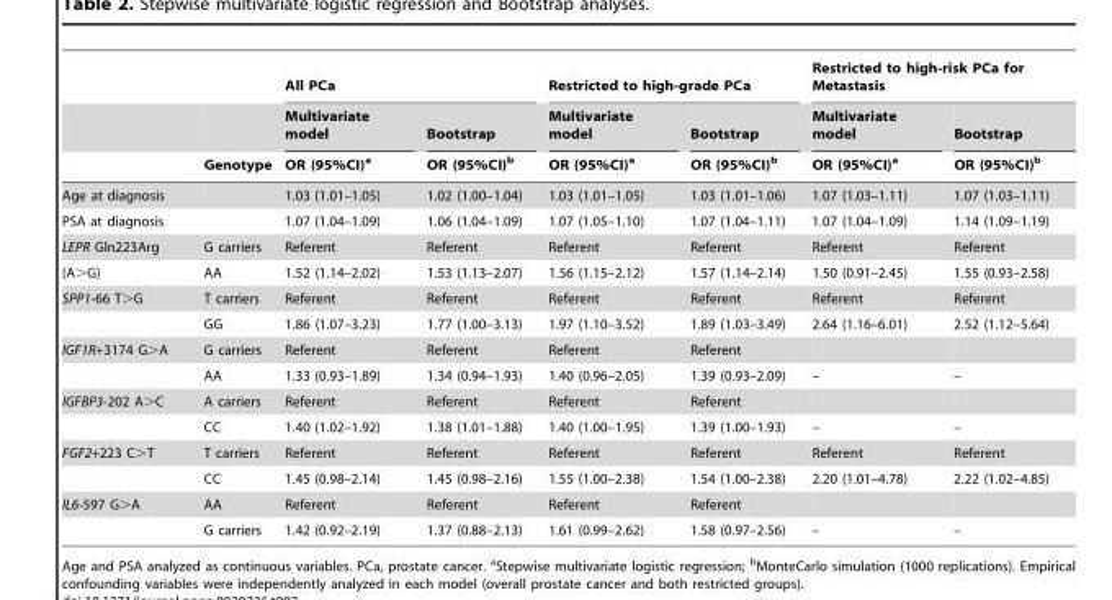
<table><thead><tr><td rowspan="3"></td><td rowspan="3">Genotype</td><td colspan="2">All PCa</td><td colspan="2">Restricted to high-grade PCa</td><td colspan="2">Restricted to high-risk PCa for Metastasis</td></tr><tr><td rowspan="2">Multivariate model OR (95%CI)<sup>a</sup></td><td rowspan="2">Bootstrap OR (95%CI)<sup>b</sup></td><td rowspan="2">Multivariate model OR (95%CI)<sup>a</sup></td><td rowspan="2">Bootstrap OR (95%CI)<sup>b</sup></td><td rowspan="2">Multivariate model OR (95%CI)<sup>a</sup></td><td rowspan="2">Bootstrap OR (95%CI)<sup>b</sup></td></tr><tr></tr></thead><tbody><tr><td>Age at diagnosis</td><td></td><td>1.03 (1.01–1.05)</td><td>1.02 (1.00–1.04)</td><td>1.03 (1.01–1.05)</td><td>1.03 (1.01–1.06)</td><td>1.07 (1.03–1.11)</td><td>1.07 (1.03–1.11)</td></tr><tr><td>PSA at diagnosis</td><td></td><td>1.07 (1.04–1.09)</td><td>1.06 (1.04–1.09)</td><td>1.07 (1.05–1.10)</td><td>1.07 (1.04–1.11)</td><td>1.07 (1.04–1.09)</td><td>1.14 (1.09–1.19)</td></tr><tr><td>LEPR Gln223Arg</td><td>G carriers</td><td>Referent</td><td>Referent</td><td>Referent</td><td>Referent</td><td>Referent</td><td>Referent</td></tr><tr><td>(A&gt;G)</td><td>AA</td><td>1.52 (1.14–2.02)</td><td>1.53 (1.13–2.07)</td><td>1.56 (1.15–2.12)</td><td>1.57 (1.14–2.14)</td><td>1.50 (0.91–2.45)</td><td>1.55 (0.93–2.58)</td></tr><tr><td rowspan="2">SPP1-66 T&gt;G</td><td>T carriers</td><td>Referent</td><td>Referent</td><td>Referent</td><td>Referent</td><td>Referent</td><td>Referent</td></tr><tr><td>GG</td><td>1.86 (1.07–3.23)</td><td>1.77 (1.00–3.13)</td><td>1.97 (1.10–3.52)</td><td>1.89 (1.03–3.49)</td><td>2.64 (1.16–6.01)</td><td>2.52 (1.12–5.64)</td></tr><tr><td rowspan="2">IGF1R+3174 G&gt;A</td><td>G carriers</td><td>Referent</td><td>Referent</td><td>Referent</td><td>Referent</td><td></td><td></td></tr><tr><td>AA</td><td>1.33 (0.93–1.89)</td><td>1.34 (0.94–1.93)</td><td>1.40 (0.96–2.05)</td><td>1.39 (0.93–2.09)</td><td>–</td><td>–</td></tr><tr><td rowspan="2">IGFBP3-202 A&gt;C</td><td>A carriers</td><td>Referent</td><td>Referent</td><td>Referent</td><td>Referent</td><td></td><td></td></tr><tr><td>CC</td><td>1.40 (1.02–1.92)</td><td>1.38 (1.01–1.88)</td><td>1.40 (1.00–1.95)</td><td>1.39 (1.00–1.93)</td><td>–</td><td>–</td></tr><tr><td rowspan="2">FGF2+223 C&gt;T</td><td>T carriers</td><td>Referent</td><td>Referent</td><td>Referent</td><td>Referent</td><td>Referent</td><td>Referent</td></tr><tr><td>CC</td><td>1.45 (0.98–2.14)</td><td>1.45 (0.98–2.16)</td><td>1.55 (1.00–2.38)</td><td>1.54 (1.00–2.38)</td><td>2.20 (1.01–4.78)</td><td>2.22 (1.02–4.85)</td></tr><tr><td rowspan="2">IL6-597 G&gt;A</td><td>AA</td><td>Referent</td><td>Referent</td><td>Referent</td><td>Referent</td><td></td><td></td></tr><tr><td>G carriers</td><td>1.42 (0.92–2.19)</td><td>1.37 (0.88–2.13)</td><td>1.61 (0.99–2.62)</td><td>1.58 (0.97–2.56)</td><td>–</td><td>–</td></tr></tbody></table>